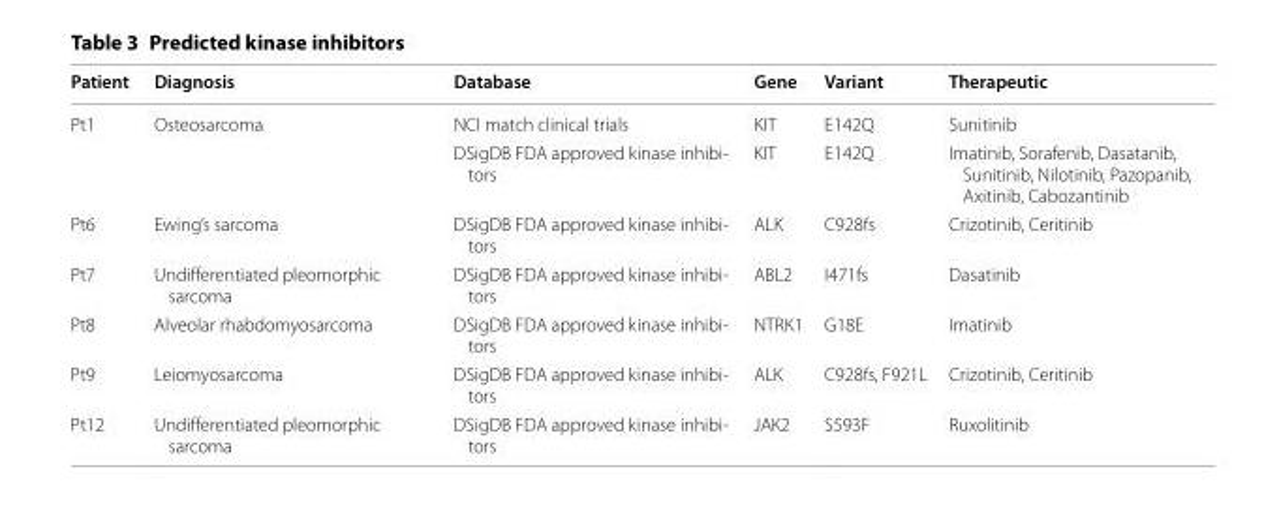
<table><thead><tr><td>Patient</td><td>Diagnosis</td><td>Database</td><td>Gene</td><td>Variant</td><td>Therapeutic</td></tr></thead><tbody><tr><td rowspan="2">Pt1</td><td rowspan="2">Osteosarcoma</td><td>NCI match clinical trials</td><td>KIT</td><td>E142Q</td><td>Sunitinib</td></tr><tr><td>DSigDB FDA approved kinase inhibi‑ tors</td><td>KIT</td><td>E142Q</td><td>Imatinib, Sorafenib, Dasatanib, Sunitinib, Nilotinib, Pazopanib, Axitinib, Cabozantinib</td></tr><tr><td>Pt6</td><td>Ewing’s sarcoma</td><td>DSigDB FDA approved kinase inhibi‑ tors</td><td>ALK</td><td>C928fs</td><td>Crizotinib, Ceritinib</td></tr><tr><td>Pt7</td><td>Undifferentiated pleomorphic sarcoma</td><td>DSigDB FDA approved kinase inhibi‑ tors</td><td>ABL2</td><td>I471fs</td><td>Dasatinib</td></tr><tr><td>Pt8</td><td>Alveolar rhabdomyosarcoma</td><td>DSigDB FDA approved kinase inhibi‑ tors</td><td>NTRK1</td><td>G18E</td><td>Imatinib</td></tr><tr><td>Pt9</td><td>Leiomyosarcoma</td><td>DSigDB FDA approved kinase inhibi‑ tors</td><td>ALK</td><td>C928fs, F921L</td><td>Crizotinib, Ceritinib</td></tr><tr><td>Pt12</td><td>Undifferentiated pleomorphic sarcoma</td><td>DSigDB FDA approved kinase inhibi‑ tors</td><td>JAK2</td><td>S593F</td><td>Ruxolitinib</td></tr></tbody></table>